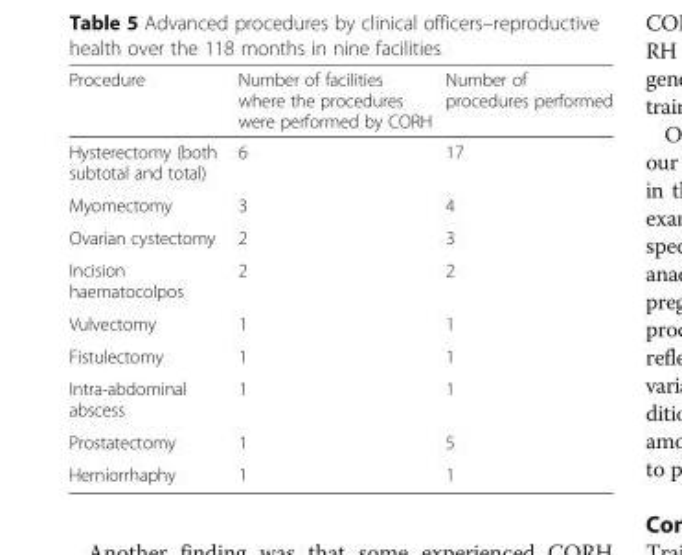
<table><thead><tr><td>Procedure</td><td>Number of facilities where the procedures were performed by CORH</td><td>Number of procedures performed</td></tr></thead><tbody><tr><td>Hysterectomy (both subtotal and total)</td><td>6</td><td>17</td></tr><tr><td>Myomectomy</td><td>3</td><td>4</td></tr><tr><td>Ovarian cystectomy</td><td>2</td><td>3</td></tr><tr><td>Incision haematocolpos</td><td>2</td><td>2</td></tr><tr><td>Vulvectomy</td><td>1</td><td>1</td></tr><tr><td>Fistulectomy</td><td>1</td><td>1</td></tr><tr><td>Intra-abdominal abscess</td><td>1</td><td>1</td></tr><tr><td>Prostatectomy</td><td>1</td><td>5</td></tr><tr><td>Herniorrhaphy</td><td>1</td><td>1</td></tr></tbody></table>